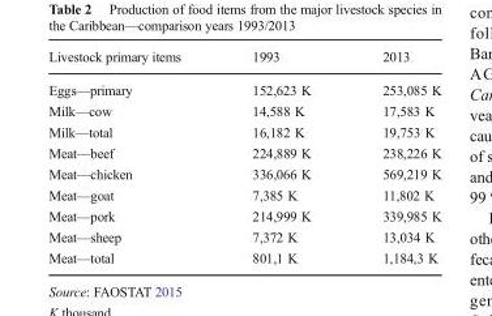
<table><thead><tr><td>Livestock primary items</td><td>1993</td><td>2013</td></tr></thead><tbody><tr><td>Eggs—primary</td><td>152,623 K</td><td>253,085 K</td></tr><tr><td>Milk—cow</td><td>14,588 K</td><td>17,583 K</td></tr><tr><td>Milk—total</td><td>16,182 K</td><td>19,753 K</td></tr><tr><td>Meat—beef</td><td>224,889 K</td><td>238,226 K</td></tr><tr><td>Meat—chicken</td><td>336,066 K</td><td>569,219 K</td></tr><tr><td>Meat—goat</td><td>7,385 K</td><td>11,802 K</td></tr><tr><td>Meat—pork</td><td>214,999 K</td><td>339,985 K</td></tr><tr><td>Meat—sheep</td><td>7,372 K</td><td>13,034 K</td></tr><tr><td>Meat—total</td><td>801,1 K</td><td>1,184,3 K</td></tr></tbody></table>